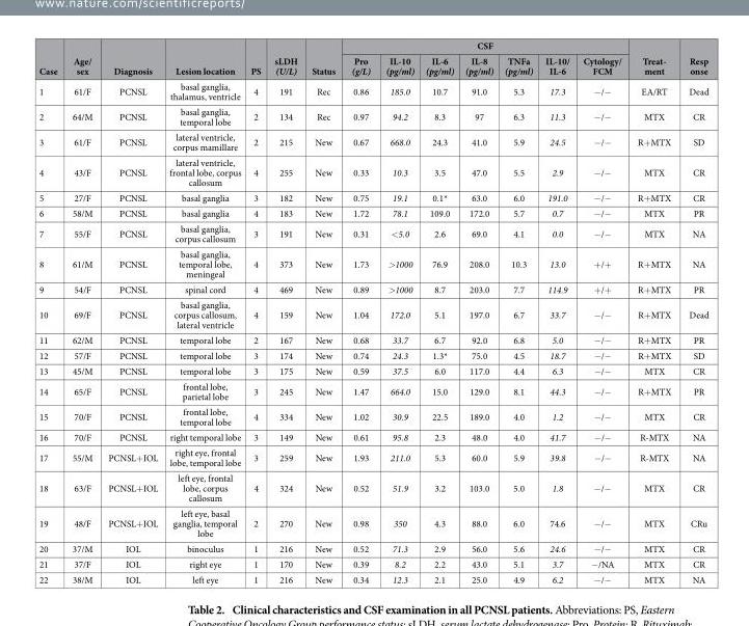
<table><thead><tr><td rowspan="2">Case</td><td rowspan="2">Age/ sex</td><td rowspan="2">Diagnosis</td><td rowspan="2">Lesion location</td><td rowspan="2">PS</td><td rowspan="2">sLDH (U/L)</td><td rowspan="2">Status</td><td colspan="7">CSF</td><td rowspan="2">Treat- ment</td><td rowspan="2">Resp onse</td></tr><tr><td>Pro (g/L)</td><td>IL-10 (pg/ml)</td><td>IL-6 (pg/ml)</td><td>IL-8 (pg/ml)</td><td>TNFa (pg/ml)</td><td>IL-10/ IL-6</td><td>Cytology/ FCM</td></tr></thead><tbody><tr><td>1</td><td>61/F</td><td>PCNSL</td><td>basal ganglia, thalamus, ventricle</td><td>4</td><td>191</td><td>Rec</td><td>0.86</td><td>185.0</td><td>10.7</td><td>91.0</td><td>5.3</td><td>17.3</td><td>− /−</td><td>EA/RT</td><td>Dead</td></tr><tr><td>2</td><td>64/M</td><td>PCNSL</td><td>basal ganglia, temporal lobe</td><td>2</td><td>134</td><td>Rec</td><td>0.97</td><td>94.2</td><td>8.3</td><td>97</td><td>6.3</td><td>11.3</td><td>− /−</td><td>MTX</td><td>CR</td></tr><tr><td>3</td><td>61/F</td><td>PCNSL</td><td>lateral ventricle, corpus mamillare</td><td>2</td><td>215</td><td>New</td><td>0.67</td><td>668.0</td><td>24.3</td><td>41.0</td><td>5.9</td><td>24.5</td><td>− /−</td><td>R+ MTX</td><td>SD</td></tr><tr><td>4</td><td>43/F</td><td>PCNSL</td><td>lateral ventricle, frontal lobe, corpus callosum</td><td>4</td><td>255</td><td>New</td><td>0.33</td><td>10.3</td><td>3.5</td><td>47.0</td><td>5.5</td><td>2.9</td><td>− /−</td><td>MTX</td><td>CR</td></tr><tr><td>5</td><td>27/F</td><td>PCNSL</td><td>basal ganglia</td><td>3</td><td>182</td><td>New</td><td>0.75</td><td>19.1</td><td>0.1*</td><td>63.0</td><td>6.0</td><td>191.0</td><td>− /−</td><td>R+ MTX</td><td>CR</td></tr><tr><td>6</td><td>58/M</td><td>PCNSL</td><td>basal ganglia</td><td>4</td><td>183</td><td>New</td><td>1.72</td><td>78.1</td><td>109.0</td><td>172.0</td><td>5.7</td><td>0.7</td><td>− /−</td><td>MTX</td><td>PR</td></tr><tr><td>7</td><td>55/F</td><td>PCNSL</td><td>basal ganglia, corpus callosum</td><td>3</td><td>191</td><td>New</td><td>0.31</td><td>&lt; 5.0</td><td>2.6</td><td>69.0</td><td>4.1</td><td>0.0</td><td>− /−</td><td>MTX</td><td>NA</td></tr><tr><td>8</td><td>61/M</td><td>PCNSL</td><td>basal ganglia, temporal lobe, meningeal</td><td>4</td><td>373</td><td>New</td><td>1.73</td><td>&gt;1000</td><td>76.9</td><td>208.0</td><td>10.3</td><td>13.0</td><td>+ /+</td><td>R+ MTX</td><td>NA</td></tr><tr><td>9</td><td>54/F</td><td>PCNSL</td><td>spinal cord</td><td>4</td><td>469</td><td>New</td><td>0.89</td><td>&gt;1000</td><td>8.7</td><td>203.0</td><td>7.7</td><td>114.9</td><td>+ /+</td><td>R+ MTX</td><td>PR</td></tr><tr><td>10</td><td>69/F</td><td>PCNSL</td><td>basal ganglia, corpus callosum, lateral ventricle</td><td>4</td><td>159</td><td>New</td><td>1.04</td><td>172.0</td><td>5.1</td><td>197.0</td><td>6.7</td><td>33.7</td><td>− /−</td><td>R+ MTX</td><td>Dead</td></tr><tr><td>11</td><td>62/M</td><td>PCNSL</td><td>temporal lobe</td><td>2</td><td>167</td><td>New</td><td>0.68</td><td>33.7</td><td>6.7</td><td>92.0</td><td>6.8</td><td>5.0</td><td>− /−</td><td>R+ MTX</td><td>PR</td></tr><tr><td>12</td><td>57/F</td><td>PCNSL</td><td>temporal lobe</td><td>3</td><td>174</td><td>New</td><td>0.74</td><td>24.3</td><td>1.3*</td><td>75.0</td><td>4.5</td><td>18.7</td><td>− /−</td><td>R+ MTX</td><td>SD</td></tr><tr><td>13</td><td>45/M</td><td>PCNSL</td><td>temporal lobe</td><td>3</td><td>175</td><td>New</td><td>0.59</td><td>37.5</td><td>6.0</td><td>117.0</td><td>4.4</td><td>6.3</td><td>− /−</td><td>MTX</td><td>CR</td></tr><tr><td>14</td><td>65/F</td><td>PCNSL</td><td>frontal lobe, parietal lobe</td><td>3</td><td>245</td><td>New</td><td>1.47</td><td>664.0</td><td>15.0</td><td>129.0</td><td>8.1</td><td>44.3</td><td>− /−</td><td>R+ MTX</td><td>PR</td></tr><tr><td>15</td><td>70/F</td><td>PCNSL</td><td>frontal lobe, temporal lobe</td><td>4</td><td>334</td><td>New</td><td>1.02</td><td>30.9</td><td>22.5</td><td>189.0</td><td>4.0</td><td>1.2</td><td>− /−</td><td>MTX</td><td>CR</td></tr><tr><td>16</td><td>70/F</td><td>PCNSL</td><td>right temporal lobe</td><td>3</td><td>149</td><td>New</td><td>0.61</td><td>95.8</td><td>2.3</td><td>48.0</td><td>4.0</td><td>41.7</td><td>− /−</td><td>R-MTX</td><td>NA</td></tr><tr><td>17</td><td>55/M</td><td>PCNSL+ IOL</td><td>right eye, frontal lobe, temporal lobe</td><td>3</td><td>259</td><td>New</td><td>1.93</td><td>211.0</td><td>5.3</td><td>60.0</td><td>5.9</td><td>39.8</td><td>− /−</td><td>R-MTX</td><td>NA</td></tr><tr><td>18</td><td>63/F</td><td>PCNSL+ IOL</td><td>left eye, frontal lobe, corpus callosum</td><td>4</td><td>324</td><td>New</td><td>0.52</td><td>51.9</td><td>3.2</td><td>103.0</td><td>5.0</td><td>1.8</td><td>− /−</td><td>MTX</td><td>CR</td></tr><tr><td>19</td><td>48/F</td><td>PCNSL+ IOL</td><td>left eye, basal ganglia, temporal lobe</td><td>2</td><td>270</td><td>New</td><td>0.98</td><td>350</td><td>4.3</td><td>88.0</td><td>6.0</td><td>74.6</td><td>− /−</td><td>MTX</td><td>CRu</td></tr><tr><td>20</td><td>37/M</td><td>IOL</td><td>binoculus</td><td>1</td><td>216</td><td>New</td><td>0.52</td><td>71.3</td><td>2.9</td><td>56.0</td><td>5.6</td><td>24.6</td><td>− /−</td><td>MTX</td><td>CR</td></tr><tr><td>21</td><td>37/F</td><td>IOL</td><td>right eye</td><td>1</td><td>170</td><td>New</td><td>0.39</td><td>8.2</td><td>2.2</td><td>43.0</td><td>5.1</td><td>3.7</td><td>− /NA</td><td>MTX</td><td>CR</td></tr><tr><td>22</td><td>38/M</td><td>IOL</td><td>left eye</td><td>1</td><td>216</td><td>New</td><td>0.34</td><td>12.3</td><td>2.1</td><td>25.0</td><td>4.9</td><td>6.2</td><td>− /−</td><td>MTX</td><td>NA</td></tr></tbody></table>